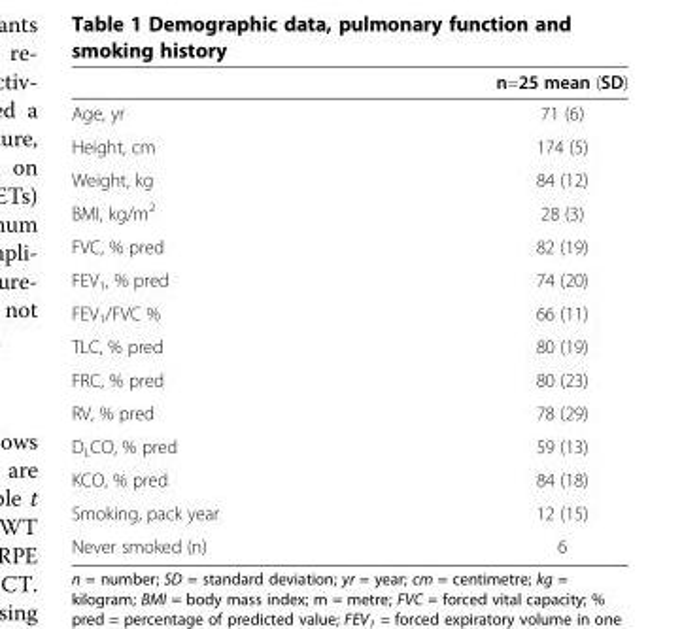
<table><thead><tr><td></td><td>n=25 mean (SD)</td></tr></thead><tbody><tr><td>Age, yr</td><td>71 (6)</td></tr><tr><td>Height, cm</td><td>174 (5)</td></tr><tr><td>Weight, kg</td><td>84 (12)</td></tr><tr><td>BMI, kg/m<sup>2</sup></td><td>28 (3)</td></tr><tr><td>FVC, % pred</td><td>82 (19)</td></tr><tr><td>FEV<sub>1</sub>, % pred</td><td>74 (20)</td></tr><tr><td>FEV<sub>1</sub>/FVC %</td><td>66 (11)</td></tr><tr><td>TLC, % pred</td><td>80 (19)</td></tr><tr><td>FRC, % pred</td><td>80 (23)</td></tr><tr><td>RV, % pred</td><td>78 (29)</td></tr><tr><td>D<sub>L</sub>CO, % pred</td><td>59 (13)</td></tr><tr><td>KCO, % pred</td><td>84 (18)</td></tr><tr><td>Smoking, pack year</td><td>12 (15)</td></tr><tr><td>Never smoked (n)</td><td>6</td></tr></tbody></table>